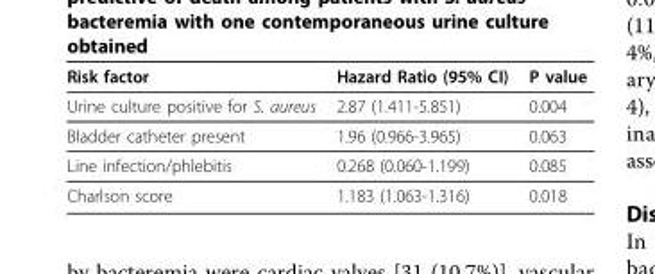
<table><thead><tr><td>Risk factor</td><td>Hazard Ratio (95% CI)</td><td>P value</td></tr></thead><tbody><tr><td>Urine culture positive for S. aureus</td><td>2.87 (1.411-5.851)</td><td>0.004</td></tr><tr><td>Bladder catheter present</td><td>1.96 (0.966-3.965)</td><td>0.063</td></tr><tr><td>Line infection/phlebitis</td><td>0.268 (0.060-1.199)</td><td>0.085</td></tr><tr><td>Charlson score</td><td>1.183 (1.063-1.316)</td><td>0.018</td></tr></tbody></table>